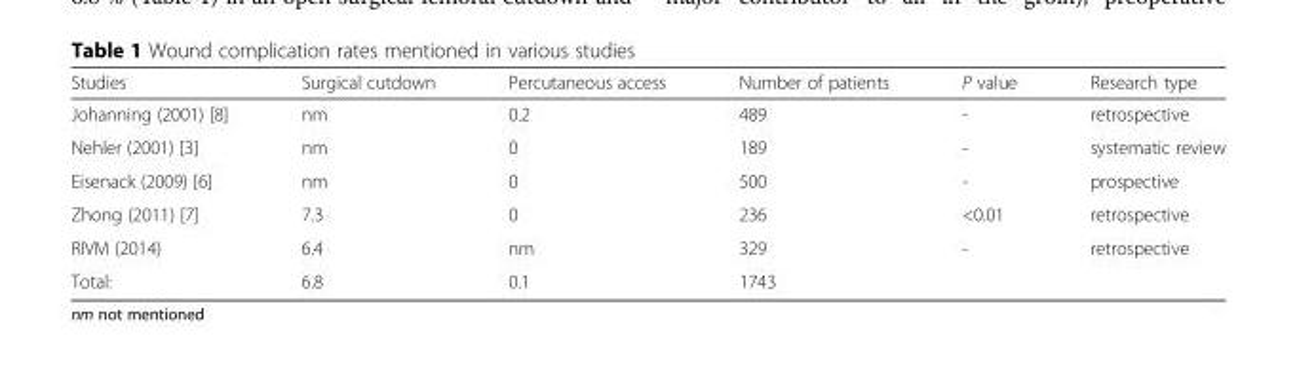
<table><thead><tr><td>Studies</td><td>Surgical cutdown</td><td>Percutaneous access</td><td>Number of patients</td><td>P value</td><td>Research type</td></tr></thead><tbody><tr><td>Johanning (2001) [8]</td><td>nm</td><td>0.2</td><td>489</td><td>-</td><td>retrospective</td></tr><tr><td>Nehler (2001) [3]</td><td>nm</td><td>0</td><td>189</td><td>-</td><td>systematic review</td></tr><tr><td>Eisenack (2009) [6]</td><td>nm</td><td>0</td><td>500</td><td>-</td><td>prospective</td></tr><tr><td>Zhong (2011) [7]</td><td>7.3</td><td>0</td><td>236</td><td>&lt;0.01</td><td>retrospective</td></tr><tr><td>RIVM (2014)</td><td>6.4</td><td>nm</td><td>329</td><td>-</td><td>retrospective</td></tr><tr><td>Total:</td><td>6.8</td><td>0.1</td><td>1743</td><td></td><td></td></tr></tbody></table>